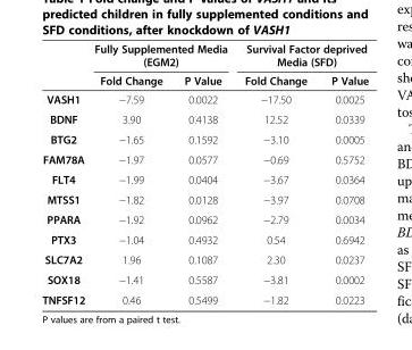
<table><thead><tr><td rowspan="2"></td><td colspan="2">Fully Supplemented Media (EGM2)</td><td colspan="2">Survival Factor deprived Media (SFD)</td></tr><tr><td>Fold Change</td><td>P Value</td><td>Fold Change</td><td>P Value</td></tr></thead><tbody><tr><td>VASH1</td><td>−7.59</td><td>0.0022</td><td>−17.50</td><td>0.0025</td></tr><tr><td>BDNF</td><td>3.90</td><td>0.4138</td><td>12.52</td><td>0.0339</td></tr><tr><td>BTG2</td><td>−1.65</td><td>0.1592</td><td>−3.10</td><td>0.0005</td></tr><tr><td>FAM78A</td><td>−1.97</td><td>0.0577</td><td>−0.69</td><td>0.5752</td></tr><tr><td>FLT4</td><td>−1.99</td><td>0.0404</td><td>−3.67</td><td>0.0364</td></tr><tr><td>MTSS1</td><td>−1.82</td><td>0.0128</td><td>−3.97</td><td>0.0708</td></tr><tr><td>PPARA</td><td>−1.92</td><td>0.0962</td><td>−2.79</td><td>0.0034</td></tr><tr><td>PTX3</td><td>−1.04</td><td>0.4932</td><td>0.54</td><td>0.6942</td></tr><tr><td>SLC7A2</td><td>1.96</td><td>0.1087</td><td>2.30</td><td>0.0237</td></tr><tr><td>SOX18</td><td>−1.41</td><td>0.5587</td><td>−3.81</td><td>0.0002</td></tr><tr><td>TNFSF12</td><td>0.46</td><td>0.5499</td><td>−1.82</td><td>0.0223</td></tr></tbody></table>